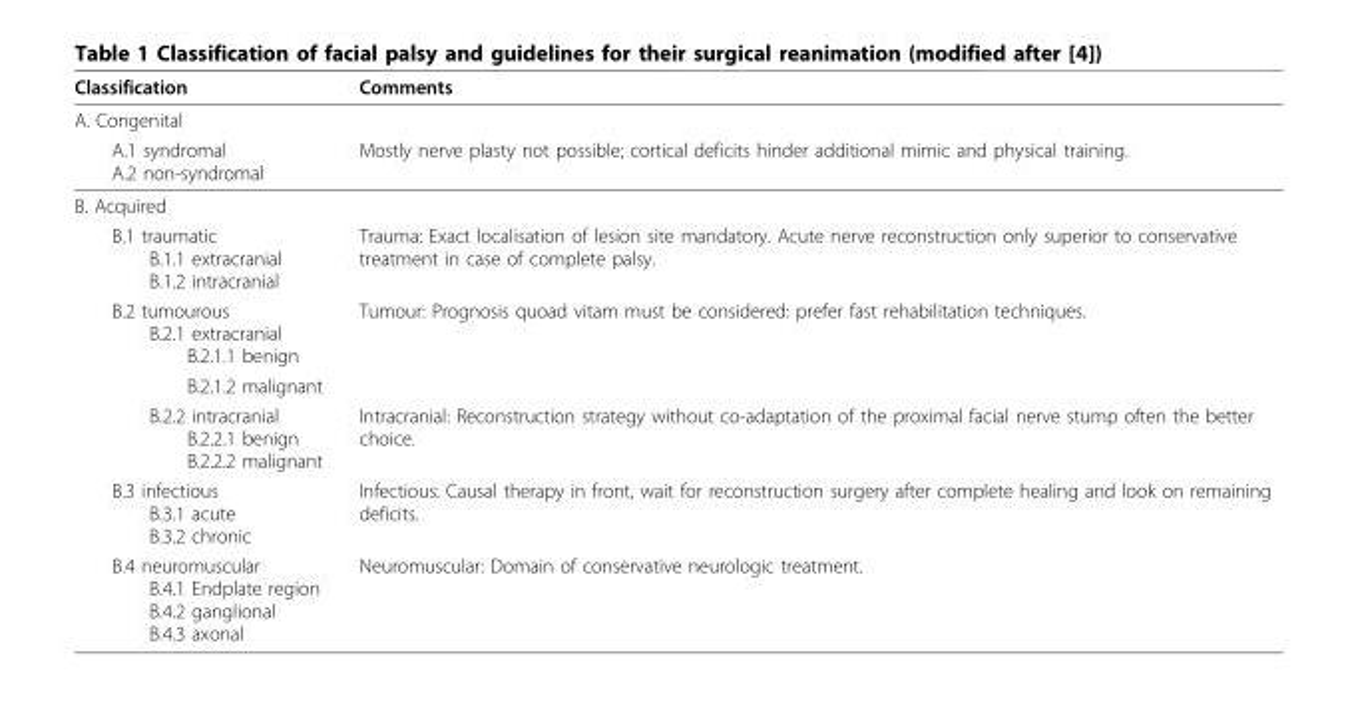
<table><thead><tr><td>Classification</td><td>Comments</td></tr></thead><tbody><tr><td colspan="2">A. Congenital</td></tr><tr><td>A.1 syndromal A.2 non-syndromal</td><td>Mostly nerve plasty not possible; cortical deficits hinder additional mimic and physical training.</td></tr><tr><td colspan="2">B. Acquired</td></tr><tr><td>B.1 traumatic B.1.1 extracranial B.1.2 intracranial</td><td>Trauma: Exact localisation of lesion site mandatory. Acute nerve reconstruction only superior to conservative treatment in case of complete palsy.</td></tr><tr><td>B.2 tumourous B.2.1 extracranial B.2.1.1 benign</td><td>Tumour: Prognosis quoad vitam must be considered: prefer fast rehabilitation techniques.</td></tr><tr><td colspan="2">B.2.1.2 malignant</td></tr><tr><td>B.2.2 intracranial B.2.2.1 benign B.2.2.2 malignant</td><td>Intracranial: Reconstruction strategy without co-adaptation of the proximal facial nerve stump often the better choice.</td></tr><tr><td>B.3 infectious B.3.1 acute B.3.2 chronic</td><td>Infectious: Causal therapy in front, wait for reconstruction surgery after complete healing and look on remaining deficits.</td></tr><tr><td>B.4 neuromuscular B.4.1 Endplate region B.4.2 ganglional B.4.3 axonal</td><td>Neuromuscular: Domain of conservative neurologic treatment.</td></tr></tbody></table>